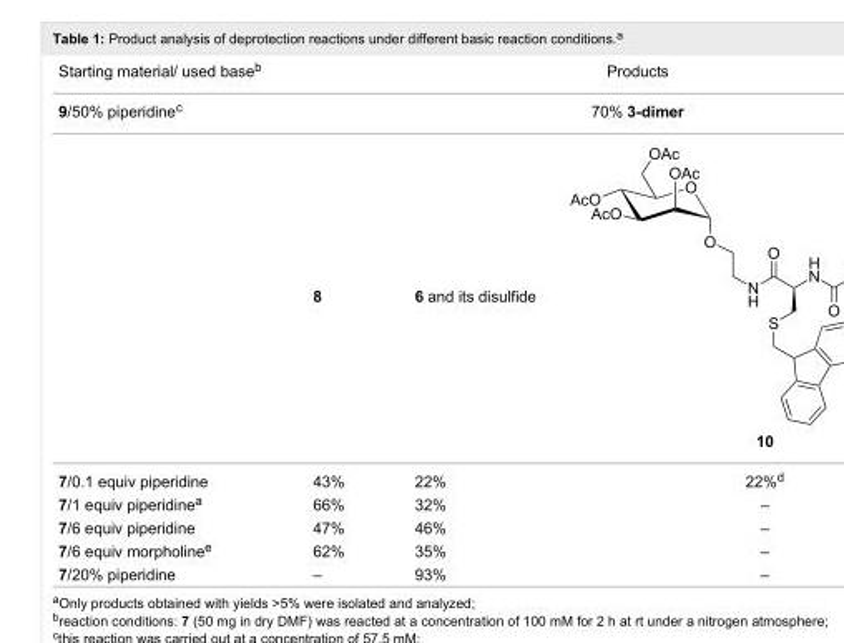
<table><tbody><tr><td>Starting material/ used baseb</td><td colspan="3">Products</td></tr><tr><td rowspan="2">9/50% piperidinec</td><td colspan="3">70% 3-dimer</td></tr><tr><td>8</td><td>6 and its disulfide</td><td>10</td></tr><tr><td>7/0.1 equiv piperidine</td><td>43%</td><td>22%</td><td>22%<sup>d</sup></td></tr><tr><td>7/1 equiv piperidine<sup>a</sup></td><td>66%</td><td>32%</td><td>–</td></tr><tr><td>7/6 equiv piperidine</td><td>47%</td><td>46%</td><td>–</td></tr><tr><td>7/6 equiv morpholine<sup>e</sup></td><td>62%</td><td>35%</td><td>–</td></tr><tr><td>7/20% piperidine</td><td>–</td><td>93%</td><td>–</td></tr></tbody></table>